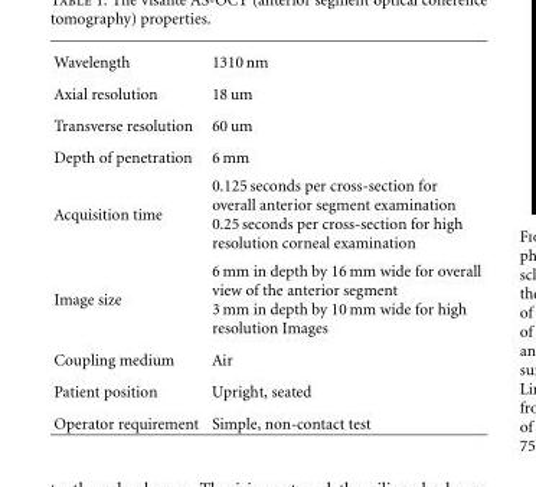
<table><tbody><tr><td>Wavelength</td><td>1310 nm</td></tr><tr><td>Axial resolution</td><td>18 um</td></tr><tr><td>Transverse resolution</td><td>60 um</td></tr><tr><td>Depth of penetration</td><td>6 mm</td></tr><tr><td>Acquisition time</td><td>0.125 seconds per cross-section for overall anterior segment examination 0.25 seconds per cross-section for high resolution corneal examination</td></tr><tr><td>Image size</td><td>6 mm in depth by 16 mm wide for overall view of the anterior segment 3 mm in depth by 10 mm wide for high resolution Images</td></tr><tr><td>Coupling medium</td><td>Air</td></tr><tr><td>Patient position</td><td>Upright, seated</td></tr><tr><td>Operator requirement</td><td>Simple, non-contact test</td></tr></tbody></table>